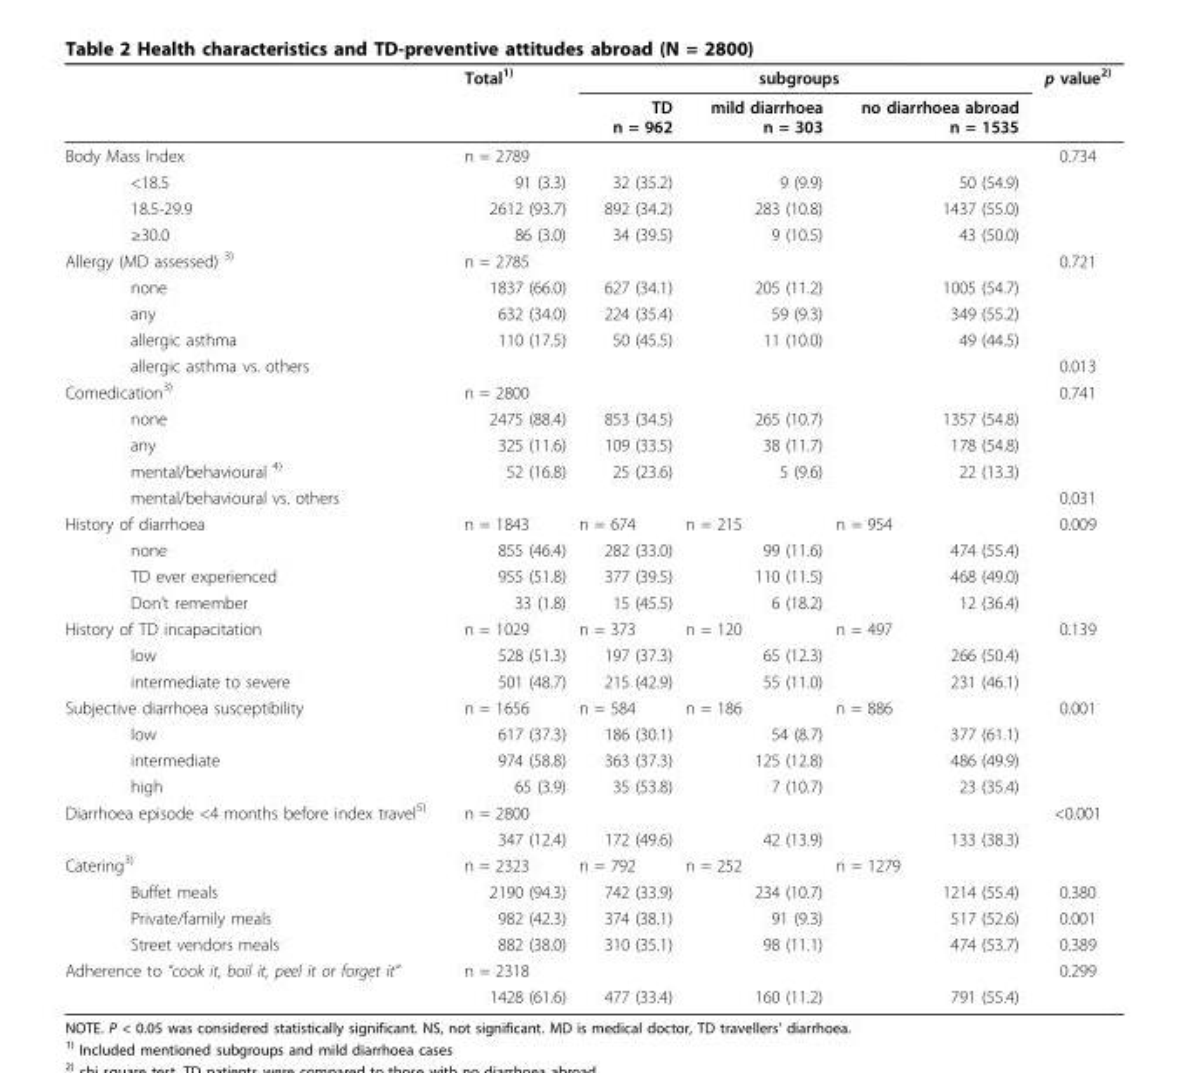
<table><thead><tr><td rowspan="2"></td><td rowspan="2">Total<sup>1)</sup></td><td colspan="3">subgroups</td><td rowspan="2">p value<sup>2)</sup></td></tr><tr><td>TD n = 962</td><td>mild diarrhoea n = 303</td><td>no diarrhoea abroad n = 1535</td></tr></thead><tbody><tr><td>Body Mass Index</td><td>n = 2789</td><td></td><td></td><td></td><td>0.734</td></tr><tr><td>&lt;18.5</td><td>91 (3.3)</td><td>32 (35.2)</td><td>9 (9.9)</td><td>50 (54.9)</td><td></td></tr><tr><td>18.5-29.9</td><td>2612 (93.7)</td><td>892 (34.2)</td><td>283 (10.8)</td><td>1437 (55.0)</td><td></td></tr><tr><td>≥30.0</td><td>86 (3.0)</td><td>34 (39.5)</td><td>9 (10.5)</td><td>43 (50.0)</td><td></td></tr><tr><td>Allergy (MD assessed) <sup>3)</sup></td><td>n = 2785</td><td></td><td></td><td></td><td>0.721</td></tr><tr><td>none</td><td>1837 (66.0)</td><td>627 (34.1)</td><td>205 (11.2)</td><td>1005 (54.7)</td><td></td></tr><tr><td>any</td><td>632 (34.0)</td><td>224 (35.4)</td><td>59 (9.3)</td><td>349 (55.2)</td><td></td></tr><tr><td>allergic asthma</td><td>110 (17.5)</td><td>50 (45.5)</td><td>11 (10.0)</td><td>49 (44.5)</td><td></td></tr><tr><td>allergic asthma vs. others</td><td></td><td></td><td></td><td></td><td>0.013</td></tr><tr><td>Comedication<sup>3)</sup></td><td>n = 2800</td><td></td><td></td><td></td><td>0.741</td></tr><tr><td>none</td><td>2475 (88.4)</td><td>853 (34.5)</td><td>265 (10.7)</td><td>1357 (54.8)</td><td></td></tr><tr><td>any</td><td>325 (11.6)</td><td>109 (33.5)</td><td>38 (11.7)</td><td>178 (54.8)</td><td></td></tr><tr><td>mental/behavioural <sup>4)</sup></td><td>52 (16.8)</td><td>25 (23.6)</td><td>5 (9.6)</td><td>22 (13.3)</td><td></td></tr><tr><td>mental/behavioural vs. others</td><td></td><td></td><td></td><td></td><td>0.031</td></tr><tr><td>History of diarrhoea</td><td>n = 1843</td><td>n = 674</td><td>n = 215</td><td>n = 954</td><td>0.009</td></tr><tr><td>none</td><td>855 (46.4)</td><td>282 (33.0)</td><td>99 (11.6)</td><td>474 (55.4)</td><td></td></tr><tr><td>TD ever experienced</td><td>955 (51.8)</td><td>377 (39.5)</td><td>110 (11.5)</td><td>468 (49.0)</td><td></td></tr><tr><td>Don’t remember</td><td>33 (1.8)</td><td>15 (45.5)</td><td>6 (18.2)</td><td>12 (36.4)</td><td></td></tr><tr><td>History of TD incapacitation</td><td>n = 1029</td><td>n = 373</td><td>n = 120</td><td>n = 497</td><td>0.139</td></tr><tr><td>low</td><td>528 (51.3)</td><td>197 (37.3)</td><td>65 (12.3)</td><td>266 (50.4)</td><td></td></tr><tr><td>intermediate to severe</td><td>501 (48.7)</td><td>215 (42.9)</td><td>55 (11.0)</td><td>231 (46.1)</td><td></td></tr><tr><td>Subjective diarrhoea susceptibility</td><td>n = 1656</td><td>n = 584</td><td>n = 186</td><td>n = 886</td><td>0.001</td></tr><tr><td>low</td><td>617 (37.3)</td><td>186 (30.1)</td><td>54 (8.7)</td><td>377 (61.1)</td><td></td></tr><tr><td>intermediate</td><td>974 (58.8)</td><td>363 (37.3)</td><td>125 (12.8)</td><td>486 (49.9)</td><td></td></tr><tr><td>high</td><td>65 (3.9)</td><td>35 (53.8)</td><td>7 (10.7)</td><td>23 (35.4)</td><td></td></tr><tr><td rowspan="2">Diarrhoea episode &lt;4 months before index travel<sup>5)</sup></td><td>n = 2800</td><td></td><td></td><td></td><td>&lt;0.001</td></tr><tr><td>347 (12.4)</td><td>172 (49.6)</td><td>42 (13.9)</td><td>133 (38.3)</td><td></td></tr><tr><td>Catering<sup>3)</sup></td><td>n = 2323</td><td>n = 792</td><td>n = 252</td><td>n = 1279</td><td></td></tr><tr><td>Buffet meals</td><td>2190 (94.3)</td><td>742 (33.9)</td><td>234 (10.7)</td><td>1214 (55.4)</td><td>0.380</td></tr><tr><td>Private/family meals</td><td>982 (42.3)</td><td>374 (38.1)</td><td>91 (9.3)</td><td>517 (52.6)</td><td>0.001</td></tr><tr><td>Street vendors meals</td><td>882 (38.0)</td><td>310 (35.1)</td><td>98 (11.1)</td><td>474 (53.7)</td><td>0.389</td></tr><tr><td rowspan="2">Adherence to “cook it, boil it, peel it or forget it”</td><td>n = 2318</td><td></td><td></td><td></td><td>0.299</td></tr><tr><td>1428 (61.6)</td><td>477 (33.4)</td><td>160 (11.2)</td><td>791 (55.4)</td><td></td></tr></tbody></table>